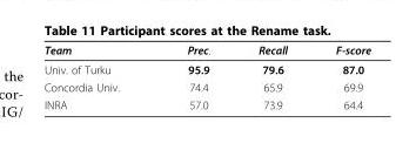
<table><thead><tr><td>Team</td><td>Prec.</td><td>Recall</td><td>F-score</td></tr></thead><tbody><tr><td>Univ. of Turku</td><td>95.9</td><td>79.6</td><td>87.0</td></tr><tr><td>Concordia Univ.</td><td>74.4</td><td>65.9</td><td>69.9</td></tr><tr><td>INRA</td><td>57.0</td><td>73.9</td><td>64.4</td></tr></tbody></table>